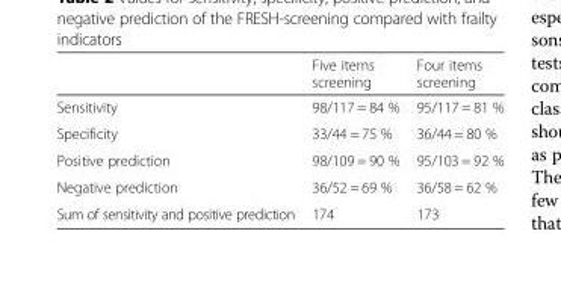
<table><thead><tr><td></td><td>Five items screening</td><td>Four items screening</td></tr></thead><tbody><tr><td>Sensitivity</td><td>98/117 = 84 %</td><td>95/117 = 81 %</td></tr><tr><td>Specificity</td><td>33/44 = 75 %</td><td>36/44 = 80 %</td></tr><tr><td>Positive prediction</td><td>98/109 = 90 %</td><td>95/103 = 92 %</td></tr><tr><td>Negative prediction</td><td>36/52 = 69 %</td><td>36/58 = 62 %</td></tr><tr><td>Sum of sensitivity and positive prediction</td><td>174</td><td>173</td></tr></tbody></table>